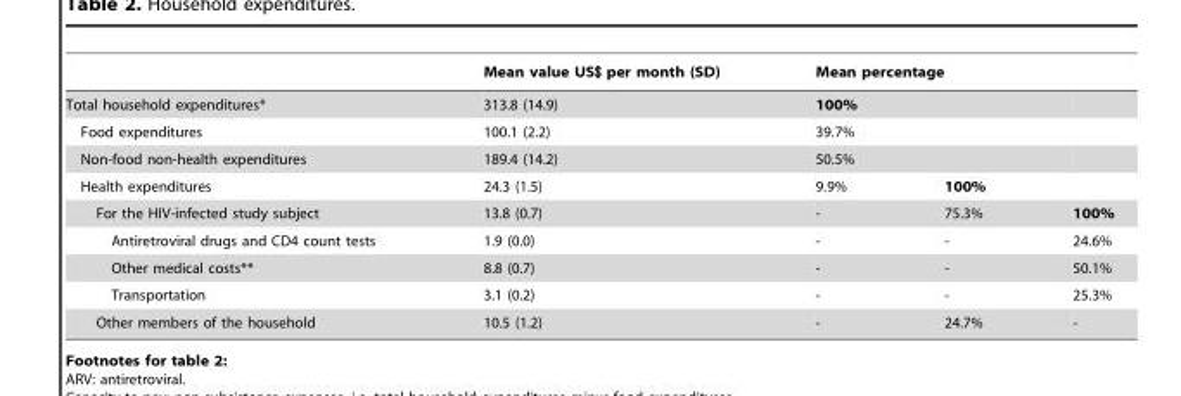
<table><thead><tr><td rowspan="2">Total household expenditures*</td><td rowspan="2">Mean value US$ per month (SD) 313.8 (14.9)</td><td colspan="3">Mean percentage</td></tr><tr><td>100%</td><td></td><td></td></tr></thead><tbody><tr><td>Food expenditures</td><td>100.1 (2.2)</td><td>39.7%</td><td></td><td></td></tr><tr><td>Non-food non-health expenditures</td><td>189.4 (14.2)</td><td>50.5%</td><td></td><td></td></tr><tr><td>Health expenditures</td><td>24.3 (1.5)</td><td>9.9%</td><td>100%</td><td></td></tr><tr><td>For the HIV-infected study subject</td><td>13.8 (0.7)</td><td>-</td><td>75.3%</td><td>100%</td></tr><tr><td>Antiretroviral drugs and CD4 count tests</td><td>1.9 (0.0)</td><td>-</td><td>-</td><td>24.6%</td></tr><tr><td>Other medical costs**</td><td>8.8 (0.7)</td><td>-</td><td>-</td><td>50.1%</td></tr><tr><td>Transportation</td><td>3.1 (0.2)</td><td>-</td><td>-</td><td>25.3%</td></tr><tr><td>Other members of the household</td><td>10.5 (1.2)</td><td>-</td><td>24.7%</td><td>-</td></tr></tbody></table>